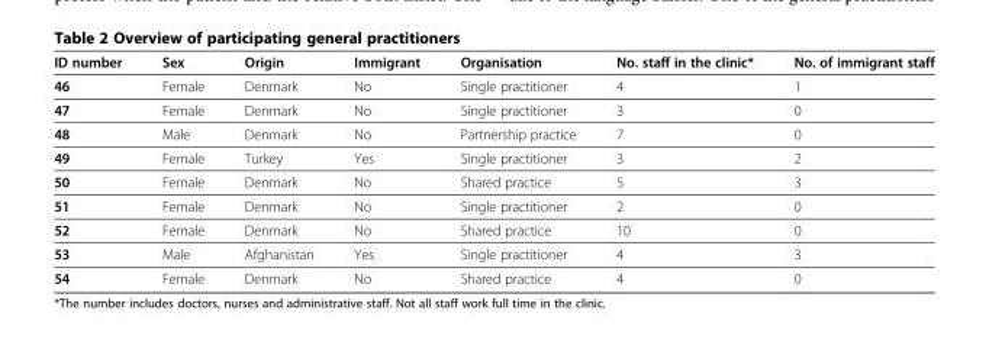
<table><thead><tr><td>ID number</td><td>Sex</td><td>Origin</td><td>Immigrant</td><td>Organisation</td><td>No. staff in the clinic*</td><td>No. of immigrant staff</td></tr></thead><tbody><tr><td>46</td><td>Female</td><td>Denmark</td><td>No</td><td>Single practitioner</td><td>4</td><td>1</td></tr><tr><td>47</td><td>Female</td><td>Denmark</td><td>No</td><td>Single practitioner</td><td>3</td><td>0</td></tr><tr><td>48</td><td>Male</td><td>Denmark</td><td>No</td><td>Partnership practice</td><td>7</td><td>0</td></tr><tr><td>49</td><td>Female</td><td>Turkey</td><td>Yes</td><td>Single practitioner</td><td>3</td><td>2</td></tr><tr><td>50</td><td>Female</td><td>Denmark</td><td>No</td><td>Shared practice</td><td>5</td><td>3</td></tr><tr><td>51</td><td>Female</td><td>Denmark</td><td>No</td><td>Single practitioner</td><td>2</td><td>0</td></tr><tr><td>52</td><td>Female</td><td>Denmark</td><td>No</td><td>Shared practice</td><td>10</td><td>0</td></tr><tr><td>53</td><td>Male</td><td>Afghanistan</td><td>Yes</td><td>Single practitioner</td><td>4</td><td>3</td></tr><tr><td>54</td><td>Female</td><td>Denmark</td><td>No</td><td>Shared practice</td><td>4</td><td>0</td></tr></tbody></table>